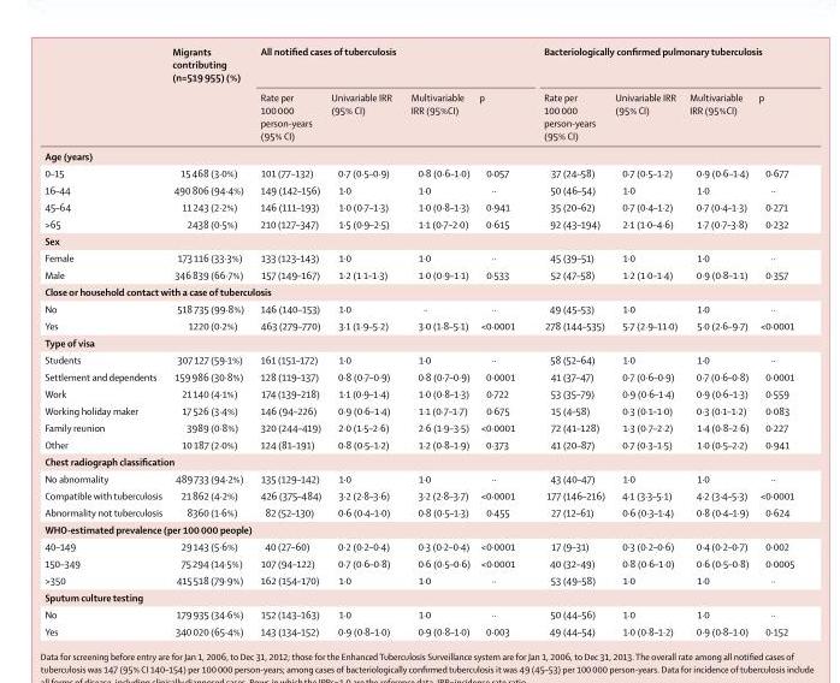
<table><thead><tr><td rowspan="2"></td><td rowspan="2">Migrants contributing (n=519 955) (%)</td><td colspan="4">All notifi ed cases of tuberculosis</td><td colspan="4">Bacteriologically confi rmed pulmonary tuberculosis</td></tr><tr><td>Rate per 100 000 person-years (95% CI)</td><td>Univariable IRR (95% CI)</td><td>Multivariable IRR (95%CI)</td><td>p</td><td>Rate per 100 000 person-years (95% CI)</td><td>Univariable IRR (95% CI)</td><td>Multivariable IRR (95%CI)</td><td>p</td></tr></thead><tbody><tr><td colspan="10">Age (years)</td></tr><tr><td>0–15</td><td>15 468 (3·0%)</td><td>101 (77–132)</td><td>0·7 (0·5–0·9)</td><td>0·8 (0·6–1·0)</td><td>0·057</td><td>37 (24–58)</td><td>0·7 (0·5–1·2)</td><td>0·9 (0·6–1·4)</td><td>0·677</td></tr><tr><td>16–44</td><td>490 806 (94·4%)</td><td>149 (142–156)</td><td>1·0</td><td>1·0</td><td>··</td><td>50 (46–54)</td><td>1·0</td><td>1·0</td><td>··</td></tr><tr><td>45–64</td><td>11 243 (2·2%)</td><td>146 (111–193)</td><td>1·0 (0·7–1·3)</td><td>1·0 (0·8–1·3)</td><td>0·941</td><td>35 (20–62)</td><td>0·7 (0·4–1·2)</td><td>0·7 (0·4–1·3)</td><td>0·271</td></tr><tr><td>&gt;65</td><td>2438 (0·5%)</td><td>210 (127–347)</td><td>1·5 (0·9–2·5)</td><td>1·1 (0·7–2·0)</td><td>0·615</td><td>92 (43–194)</td><td>2·1 (1·0–4·6)</td><td>1·7 (0·7–3·8)</td><td>0·232</td></tr><tr><td colspan="10">Sex</td></tr><tr><td>Female</td><td>173 116 (33·3%)</td><td>133 (123–143)</td><td>1·0</td><td>1·0</td><td>··</td><td>45 (39–51)</td><td>1·0</td><td>1·0</td><td>··</td></tr><tr><td>Male</td><td>346 839 (66·7%)</td><td>157 (149–167)</td><td>1·2 (1·1–1·3)</td><td>1·0 (0·9–1·1)</td><td>0·533</td><td>52 (47–58)</td><td>1·2 (1·0–1·4)</td><td>0·9 (0·8–1·1)</td><td>0·357</td></tr><tr><td colspan="10">Close or household contact with a case of tuberculosis</td></tr><tr><td>No</td><td>518 735 (99·8%)</td><td>146 (140–153)</td><td>1·0</td><td>··</td><td>··</td><td>49 (45–53)</td><td>1·0</td><td>1·0</td><td>··</td></tr><tr><td>Yes</td><td>1220 (0·2%)</td><td>463 (279–770)</td><td>3·1 (1·9–5·2)</td><td>3·0 (1·8–5·1)</td><td>&lt;0·0001</td><td>278 (144–535)</td><td>5·7 (2·9–11·0)</td><td>5·0 (2·6–9·7)</td><td>&lt;0·0001</td></tr><tr><td colspan="10">Type of visa</td></tr><tr><td>Students</td><td>307 127 (59·1%)</td><td>161 (151–172)</td><td>1·0</td><td>1·0</td><td>··</td><td>58 (52–64)</td><td>1·0</td><td>1·0</td><td>··</td></tr><tr><td>Settlement and dependents</td><td>159 986 (30·8%)</td><td>128 (119–137)</td><td>0·8 (0·7–0·9)</td><td>0·8 (0·7–0·9)</td><td>0·0001</td><td>41 (37–47)</td><td>0·7 (0·6–0·9)</td><td>0·7 (0·6–0·8)</td><td>0·0001</td></tr><tr><td>Work</td><td>21 140 (4·1%)</td><td>174 (139–218)</td><td>1·1 (0·9–1·4)</td><td>1·0 (0·8–1·3)</td><td>0·722</td><td>53 (35–79)</td><td>0·9 (0·6–1·4)</td><td>0·9 (0·6–1·3)</td><td>0·559</td></tr><tr><td>Working holiday maker</td><td>17 526 (3·4%)</td><td>146 (94–226)</td><td>0·9 (0·6–1·4)</td><td>1·1 (0·7–1·7)</td><td>0·675</td><td>15 (4–58)</td><td>0·3 (0·1–1·0)</td><td>0·3 (0·1–1·2)</td><td>0·083</td></tr><tr><td>Family reunion</td><td>3989 (0·8%)</td><td>320 (244–419)</td><td>2·0 (1·5–2·6)</td><td>2·6 (1·9–3·5)</td><td>&lt;0·0001</td><td>72 (41–128)</td><td>1·3 (0·7–2·2)</td><td>1·4 (0·8–2·6)</td><td>0·227</td></tr><tr><td>Other</td><td>10 187 (2·0%)</td><td>124 (81–191)</td><td>0·8 (0·5–1·2)</td><td>1·2 (0·8–1·9)</td><td>0·373</td><td>41 (20–87)</td><td>0·7 (0·3–1·5)</td><td>1·0 (0·5–2·2)</td><td>0·941</td></tr><tr><td colspan="10">Chest radiograph classifi cation</td></tr><tr><td>No abnormality</td><td>489 733 (94·2%)</td><td>135 (129–142)</td><td>1·0</td><td>1·0</td><td>··</td><td>43 (40–47)</td><td>1·0</td><td>1·0</td><td>··</td></tr><tr><td>Compatible with tuberculosis</td><td>21 862 (4·2%)</td><td>426 (375–484)</td><td>3·2 (2·8–3·6)</td><td>3·2 (2·8–3·7)</td><td>&lt;0·0001</td><td>177 (146–216)</td><td>4·1 (3·3–5·1)</td><td>4·2 (3·4–5·3)</td><td>&lt;0·0001</td></tr><tr><td>Abnormality not tuberculosis</td><td>8360 (1·6%)</td><td>82 (52–130)</td><td>0·6 (0·4–1·0)</td><td>0·8 (0·5–1·3)</td><td>0·455</td><td>27 (12–61)</td><td>0·6 (0·3–1·4)</td><td>0·8 (0·4–1·9)</td><td>0·624</td></tr><tr><td colspan="10">WHO-estimated prevalence (per 100 000 people)</td></tr><tr><td>40–149</td><td>29 143 (5·6%)</td><td>40 (27–60)</td><td>0·2 (0·2–0·4)</td><td>0·3 (0·2–0·4)</td><td>&lt;0·0001</td><td>17 (9–31)</td><td>0·3 (0·2–0·6)</td><td>0·4 (0·2–0·7)</td><td>0·002</td></tr><tr><td>150–349</td><td>75 294 (14·5%)</td><td>107 (94–122)</td><td>0·7 (0·6–0·8)</td><td>0·6 (0·5–0·6)</td><td>&lt;0·0001</td><td>40 (32–49)</td><td>0·8 (0·6–1·0)</td><td>0·6 (0·5–0·8)</td><td>0·0005</td></tr><tr><td>&gt;350</td><td>415 518 (79·9%)</td><td>162 (154–170)</td><td>1·0</td><td>1·0</td><td>··</td><td>53 (49–58)</td><td>1·0</td><td>1·0</td><td>··</td></tr><tr><td colspan="10">Sputum culture testing</td></tr><tr><td>No</td><td>179 935 (34·6%)</td><td>152 (143–163)</td><td>1·0</td><td>1·0</td><td>··</td><td>50 (44–56)</td><td>1·0</td><td>1·0</td><td>··</td></tr><tr><td>Yes</td><td>340 020 (65·4%)</td><td>143 (134–152)</td><td>0·9 (0·8–1·0)</td><td>0·9 (0·8–1·0)</td><td>0·003</td><td>49 (44–54)</td><td>1·0 (0·8–1·2)</td><td>0·9 (0·8–1·0)</td><td>0·152</td></tr></tbody></table>